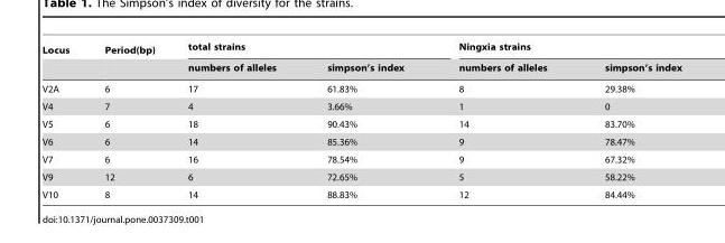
<table><thead><tr><td rowspan="2">Locus</td><td rowspan="2">Period(bp)</td><td colspan="2">total strains</td><td colspan="2">Ningxia strains</td></tr><tr><td>numbers of alleles</td><td>simpson’s index</td><td>numbers of alleles</td><td>simpson’s index</td></tr></thead><tbody><tr><td>V2A</td><td>6</td><td>17</td><td>61.83%</td><td>8</td><td>29.38%</td></tr><tr><td>V4</td><td>7</td><td>4</td><td>3.66%</td><td>1</td><td>0</td></tr><tr><td>V5</td><td>6</td><td>18</td><td>90.43%</td><td>14</td><td>83.70%</td></tr><tr><td>V6</td><td>6</td><td>14</td><td>85.36%</td><td>9</td><td>78.47%</td></tr><tr><td>V7</td><td>6</td><td>16</td><td>78.54%</td><td>9</td><td>67.32%</td></tr><tr><td>V9</td><td>12</td><td>6</td><td>72.65%</td><td>5</td><td>58.22%</td></tr><tr><td>V10</td><td>8</td><td>14</td><td>88.83%</td><td>12</td><td>84.44%</td></tr></tbody></table>